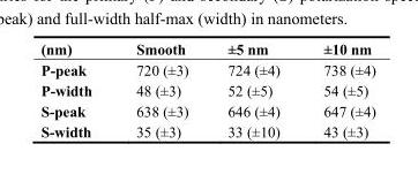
<table><thead><tr><td>(nm)</td><td>Smooth</td><td>±5 nm</td><td>±10 nm</td></tr></thead><tbody><tr><td>P-peak</td><td>720 (±3)</td><td>724 (±4)</td><td>738 (±4)</td></tr><tr><td>P-width</td><td>48 (±3)</td><td>52 (±5)</td><td>54 (±5)</td></tr><tr><td>S-peak</td><td>638 (±3)</td><td>646 (±4)</td><td>647 (±4)</td></tr><tr><td>S-width</td><td>35 (±3)</td><td>33 (±10)</td><td>43 (±3)</td></tr></tbody></table>